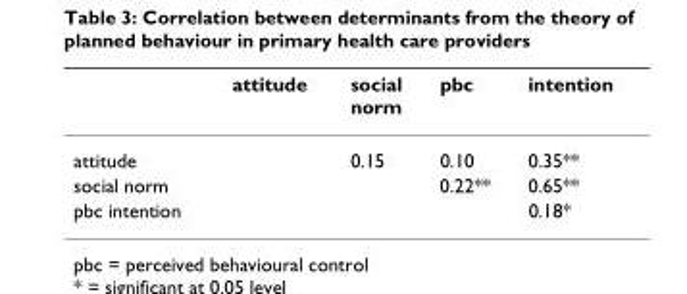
<table><thead><tr><td></td><td>attitude</td><td>social norm</td><td>pbc</td><td>intention</td></tr></thead><tbody><tr><td>attitude</td><td></td><td>0.15</td><td>0.10</td><td>0.35**</td></tr><tr><td>social norm</td><td></td><td></td><td>0.22**</td><td>0.65**</td></tr><tr><td>pbc intention</td><td></td><td></td><td></td><td>0.18*</td></tr></tbody></table>